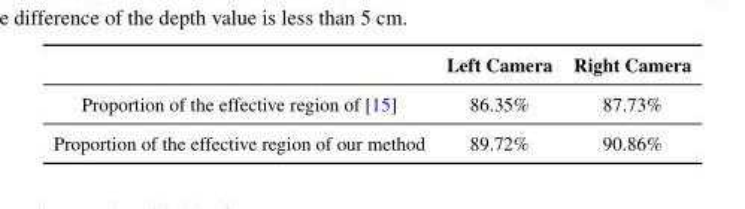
<table><thead><tr><td></td><td>Left Camera</td><td>Right Camera</td></tr></thead><tbody><tr><td>Proportion of the effective region of [15]</td><td>86.35%</td><td>87.73%</td></tr><tr><td>Proportion of the effective region of our method</td><td>89.72%</td><td>90.86%</td></tr></tbody></table>